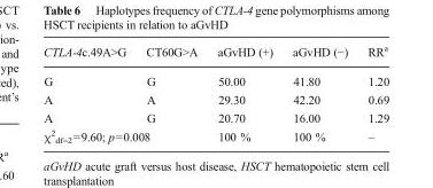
<table><thead><tr><td>CTLA-4c.49A&gt;G</td><td>CT60G&gt;A</td><td>aGvHD (+)</td><td>aGvHD (−)</td><td>RR<sup>a</sup></td></tr></thead><tbody><tr><td>G</td><td>G</td><td>50.00</td><td>41.80</td><td>1.20</td></tr><tr><td>A</td><td>A</td><td>29.30</td><td>42.20</td><td>0.69</td></tr><tr><td>A</td><td>G</td><td>20.70</td><td>16.00</td><td>1.29</td></tr><tr><td colspan="2">χ<sup>2</sup> <sub>df=2</sub>=9.60; p=0.008</td><td>100 %</td><td>100 %</td><td>–</td></tr></tbody></table>